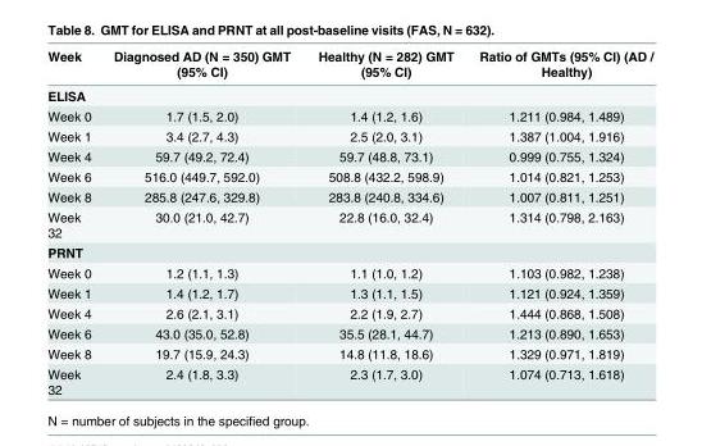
<table><thead><tr><td>Week</td><td>Diagnosed AD (N = 350) GMT (95% CI)</td><td>Healthy (N = 282) GMT (95% CI)</td><td>Ratio of GMTs (95% CI) (AD / Healthy)</td></tr></thead><tbody><tr><td colspan="4">ELISA</td></tr><tr><td>Week 0</td><td>1.7 (1.5, 2.0)</td><td>1.4 (1.2, 1.6)</td><td>1.211 (0.984, 1.489)</td></tr><tr><td>Week 1</td><td>3.4 (2.7, 4.3)</td><td>2.5 (2.0, 3.1)</td><td>1.387 (1.004, 1.916)</td></tr><tr><td>Week 4</td><td>59.7 (49.2, 72.4)</td><td>59.7 (48.8, 73.1)</td><td>0.999 (0.755, 1.324)</td></tr><tr><td>Week 6</td><td>516.0 (449.7, 592.0)</td><td>508.8 (432.2, 598.9)</td><td>1.014 (0.821, 1.253)</td></tr><tr><td>Week 8</td><td>285.8 (247.6, 329.8)</td><td>283.8 (240.8, 334.6)</td><td>1.007 (0.811, 1.251)</td></tr><tr><td>Week 32</td><td>30.0 (21.0, 42.7)</td><td>22.8 (16.0, 32.4)</td><td>1.314 (0.798, 2.163)</td></tr><tr><td colspan="4">PRNT</td></tr><tr><td>Week 0</td><td>1.2 (1.1, 1.3)</td><td>1.1 (1.0, 1.2)</td><td>1.103 (0.982, 1.238)</td></tr><tr><td>Week 1</td><td>1.4 (1.2, 1.7)</td><td>1.3 (1.1, 1.5)</td><td>1.121 (0.924, 1.359)</td></tr><tr><td>Week 4</td><td>2.6 (2.1, 3.1)</td><td>2.2 (1.9, 2.7)</td><td>1.444 (0.868, 1.508)</td></tr><tr><td>Week 6</td><td>43.0 (35.0, 52.8)</td><td>35.5 (28.1, 44.7)</td><td>1.213 (0.890, 1.653)</td></tr><tr><td>Week 8</td><td>19.7 (15.9, 24.3)</td><td>14.8 (11.8, 18.6)</td><td>1.329 (0.971, 1.819)</td></tr><tr><td>Week 32</td><td>2.4 (1.8, 3.3)</td><td>2.3 (1.7, 3.0)</td><td>1.074 (0.713, 1.618)</td></tr></tbody></table>